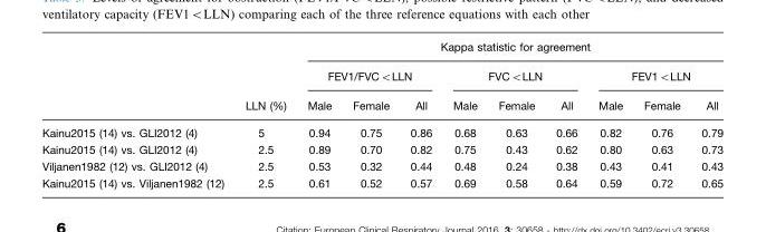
<table><thead><tr><td rowspan="3"></td><td rowspan="3">LLN (%)</td><td colspan="9">Kappa statistic for agreement</td></tr><tr><td colspan="3">FEV1/FVC&lt;LLN</td><td colspan="3">FVC&lt;LLN</td><td colspan="3">FEV1&lt;LLN</td></tr><tr><td>Male</td><td>Female</td><td>All</td><td>Male</td><td>Female</td><td>All</td><td>Male</td><td>Female</td><td>All</td></tr></thead><tbody><tr><td>Kainu2015 (14) vs. GLI2012 (4)</td><td>5</td><td>0.94</td><td>0.75</td><td>0.86</td><td>0.68</td><td>0.63</td><td>0.66</td><td>0.82</td><td>0.76</td><td>0.79</td></tr><tr><td>Kainu2015 (14) vs. GLI2012 (4)</td><td>2.5</td><td>0.89</td><td>0.70</td><td>0.82</td><td>0.75</td><td>0.43</td><td>0.62</td><td>0.80</td><td>0.63</td><td>0.73</td></tr><tr><td>Viljanen1982 (12) vs. GLI2012 (4)</td><td>2.5</td><td>0.53</td><td>0.32</td><td>0.44</td><td>0.48</td><td>0.24</td><td>0.38</td><td>0.43</td><td>0.41</td><td>0.43</td></tr><tr><td>Kainu2015 (14) vs. Viljanen1982 (12)</td><td>2.5</td><td>0.61</td><td>0.52</td><td>0.57</td><td>0.69</td><td>0.58</td><td>0.64</td><td>0.59</td><td>0.72</td><td>0.65</td></tr></tbody></table>